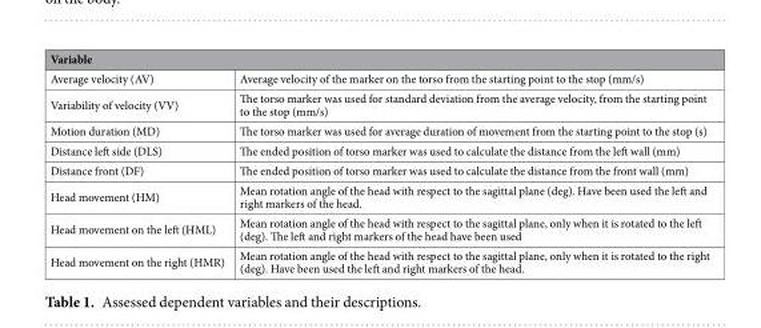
<table><thead><tr><td colspan="2">Variable</td></tr><tr><td>Average velocity (AV)</td><td>Average velocity of the marker on the torso from the starting point to the stop (mm/s)</td></tr></thead><tbody><tr><td>Variability of velocity (VV)</td><td>The torso marker was used for standard deviation from the average velocity, from the starting point to the stop (mm/s)</td></tr><tr><td>Motion duration (MD)</td><td>The torso marker was used for average duration of movement from the starting point to the stop (s)</td></tr><tr><td>Distance left side (DLS)</td><td>The ended position of torso marker was used to calculate the distance from the left wall (mm)</td></tr><tr><td>Distance front (DF)</td><td>The ended position of torso marker was used to calculate the distance from the front wall (mm)</td></tr><tr><td>Head movement (HM)</td><td>Mean rotation angle of the head with respect to the sagittal plane (deg). Have been used the left and right markers of the head.</td></tr><tr><td>Head movement on the left (HML)</td><td>Mean rotation angle of the head with respect to the sagittal plane, only when it is rotated to the left (deg). The left and right markers of the head have been used</td></tr><tr><td>Head movement on the right (HMR)</td><td>Mean rotation angle of the head with respect to the sagittal plane, only when it is rotated to the right (deg). Have been used the left and right markers of the head.</td></tr></tbody></table>